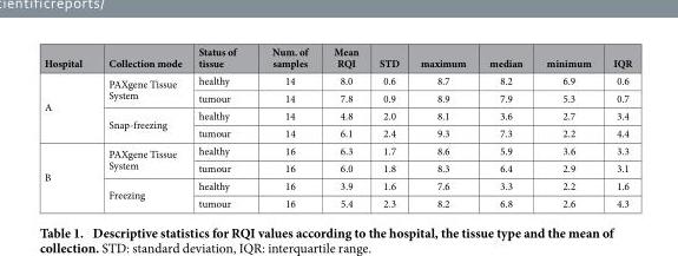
<table><thead><tr><td>Hospital</td><td>Collection mode</td><td>Status of tissue</td><td>Num. of samples</td><td>Mean RQI</td><td>STD</td><td>maximum</td><td>median</td><td>minimum</td><td>IQR</td></tr></thead><tbody><tr><td rowspan="4">A</td><td rowspan="2">PAXgene Tissue System</td><td>healthy</td><td>14</td><td>8.0</td><td>0.6</td><td>8.7</td><td>8.2</td><td>6.9</td><td>0.6</td></tr><tr><td>tumour</td><td>14</td><td>7.8</td><td>0.9</td><td>8.9</td><td>7.9</td><td>5.3</td><td>0.7</td></tr><tr><td rowspan="2">Snap-freezing</td><td>healthy</td><td>14</td><td>4.8</td><td>2.0</td><td>8.1</td><td>3.6</td><td>2.7</td><td>3.4</td></tr><tr><td>tumour</td><td>14</td><td>6.1</td><td>2.4</td><td>9.3</td><td>7.3</td><td>2.2</td><td>4.4</td></tr><tr><td rowspan="4">B</td><td rowspan="2">PAXgene Tissue System</td><td>healthy</td><td>16</td><td>6.3</td><td>1.7</td><td>8.6</td><td>5.9</td><td>3.6</td><td>3.3</td></tr><tr><td>tumour</td><td>16</td><td>6.0</td><td>1.8</td><td>8.3</td><td>6.4</td><td>2.9</td><td>3.1</td></tr><tr><td rowspan="2">Freezing</td><td>healthy</td><td>16</td><td>3.9</td><td>1.6</td><td>7.6</td><td>3.3</td><td>2.2</td><td>1.6</td></tr><tr><td>tumour</td><td>16</td><td>5.4</td><td>2.3</td><td>8.2</td><td>6.8</td><td>2.6</td><td>4.3</td></tr></tbody></table>